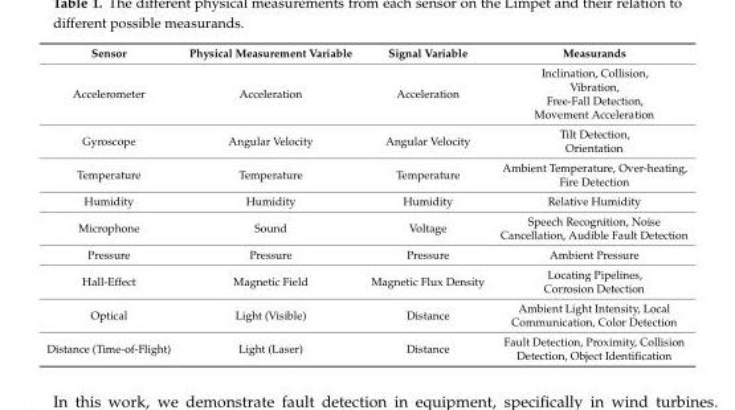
<table><thead><tr><td>Sensor</td><td>Physical Measurement Variable</td><td>Signal Variable</td><td>Measurands</td></tr></thead><tbody><tr><td>Accelerometer</td><td>Acceleration</td><td>Acceleration</td><td>Inclination, Collision, Vibration, Free-Fall Detection, Movement Acceleration</td></tr><tr><td>Gyroscope</td><td>Angular Velocity</td><td>Angular Velocity</td><td>Tilt Detection, Orientation</td></tr><tr><td>Temperature</td><td>Temperature</td><td>Temperature</td><td>Ambient Temperature, Over-heating, Fire Detection</td></tr><tr><td>Humidity</td><td>Humidity</td><td>Humidity</td><td>Relative Humidity</td></tr><tr><td>Microphone</td><td>Sound</td><td>Voltage</td><td>Speech Recognition, Noise Cancellation, Audible Fault Detection</td></tr><tr><td>Pressure</td><td>Pressure</td><td>Pressure</td><td>Ambient Pressure</td></tr><tr><td>Hall-Effect</td><td>Magnetic Field</td><td>Magnetic Flux Density</td><td>Locating Pipelines, Corrosion Detection</td></tr><tr><td>Optical</td><td>Light (Visible)</td><td>Distance</td><td>Ambient Light Intensity, Local Communication, Color Detection</td></tr><tr><td>Distance (Time-of-Flight)</td><td>Light (Laser)</td><td>Distance</td><td>Fault Detection, Proximity, Collision Detection, Object Identification</td></tr></tbody></table>